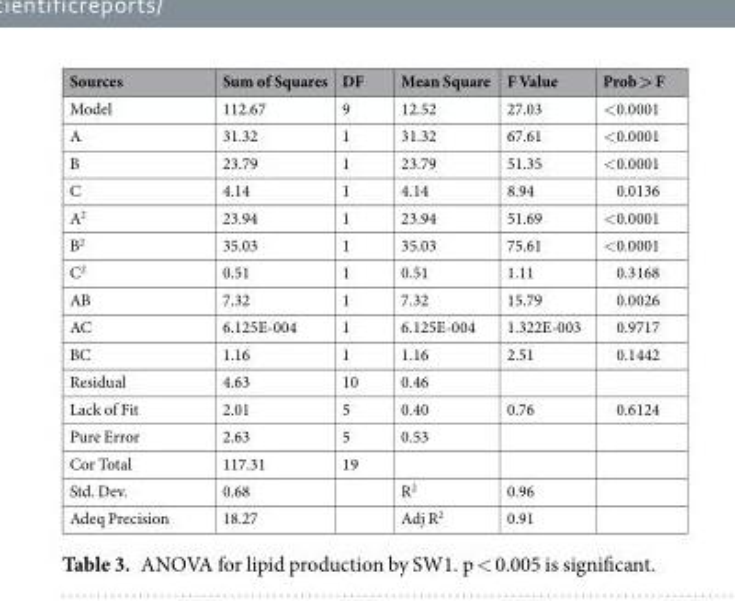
<table><thead><tr><td>Sources</td><td>Sum of Squares</td><td>DF</td><td>Mean Square</td><td>F Value</td><td>Prob &gt; F</td></tr></thead><tbody><tr><td>Model</td><td>112.67</td><td>9</td><td>12.52</td><td>27.03</td><td>&lt;0.0001</td></tr><tr><td>A</td><td>31.32</td><td>1</td><td>31.32</td><td>67.61</td><td>&lt;0.0001</td></tr><tr><td>B</td><td>23.79</td><td>1</td><td>23.79</td><td>51.35</td><td>&lt;0.0001</td></tr><tr><td>C</td><td>4.14</td><td>1</td><td>4.14</td><td>8.94</td><td>0.0136</td></tr><tr><td>A<sup>2</sup></td><td>23.94</td><td>1</td><td>23.94</td><td>51.69</td><td>&lt;0.0001</td></tr><tr><td>B<sup>2</sup></td><td>35.03</td><td>1</td><td>35.03</td><td>75.61</td><td>&lt;0.0001</td></tr><tr><td>C<sup>2</sup></td><td>0.51</td><td>1</td><td>0.51</td><td>1.11</td><td>0.3168</td></tr><tr><td>AB</td><td>7.32</td><td>1</td><td>7.32</td><td>15.79</td><td>0.0026</td></tr><tr><td>AC</td><td>6.125E-004</td><td>1</td><td>6.125E-004</td><td>1.322E-003</td><td>0.9717</td></tr><tr><td>BC</td><td>1.16</td><td>1</td><td>1.16</td><td>2.51</td><td>0.1442</td></tr><tr><td>Residual</td><td>4.63</td><td>10</td><td>0.46</td><td></td><td></td></tr><tr><td>Lack of Fit</td><td>2.01</td><td>5</td><td>0.40</td><td>0.76</td><td>0.6124</td></tr><tr><td>Pure Error</td><td>2.63</td><td>5</td><td>0.53</td><td></td><td></td></tr><tr><td>Cor Total</td><td>117.31</td><td>19</td><td></td><td></td><td></td></tr><tr><td>Std. Dev.</td><td>0.68</td><td></td><td>R<sup>2</sup></td><td>0.96</td><td></td></tr><tr><td>Adeq Precision</td><td>18.27</td><td></td><td>Adj R<sup>2</sup></td><td>0.91</td><td></td></tr></tbody></table>